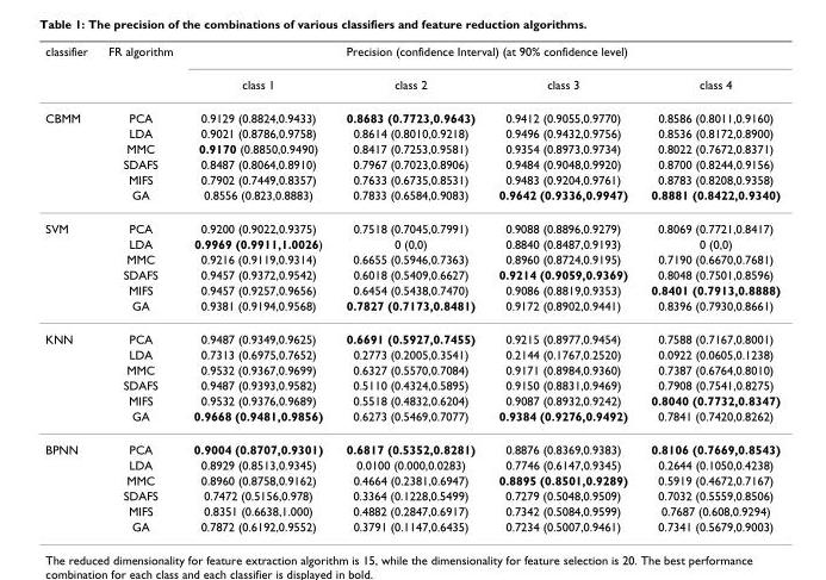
<table><thead><tr><td rowspan="2">classifier</td><td rowspan="2">FR algorithm</td><td colspan="4">Precision (confidence Interval) (at 90% confidence level)</td></tr><tr><td>class 1</td><td>class 2</td><td>class 3</td><td>class 4</td></tr></thead><tbody><tr><td rowspan="6">CBMM</td><td>PCA</td><td>0.9129 (0.8824,0.9433)</td><td>0.8683 (0.7723,0.9643)</td><td>0.9412 (0.9055,0.9770)</td><td>0.8586 (0.8011,0.9160)</td></tr><tr><td>LDA</td><td>0.9021 (0.8786,0.9758)</td><td>0.8614 (0.8010,0.9218)</td><td>0.9496 (0.9432,0.9756)</td><td>0.8536 (0.8172,0.8900)</td></tr><tr><td>MMC</td><td>0.9170 (0.8850,0.9490)</td><td>0.8417 (0.7253,0.9581)</td><td>0.9354 (0.8973,0.9734)</td><td>0.8022 (0.7672,0.8371)</td></tr><tr><td>SDAFS</td><td>0.8487 (0.8064,0.8910)</td><td>0.7967 (0.7023,0.8906)</td><td>0.9484 (0.9048,0.9920)</td><td>0.8700 (0.8244,0.9156)</td></tr><tr><td>MIFS</td><td>0.7902 (0.7449,0.8357)</td><td>0.7633 (0.6735,0.8531)</td><td>0.9483 (0.9204,0.9761)</td><td>0.8783 (0.8208,0.9358)</td></tr><tr><td>GA</td><td>0.8556 (0.823,0.8883)</td><td>0.7833 (0.6584,0.9083)</td><td>0.9642 (0.9336,0.9947)</td><td>0.8881 (0.8422,0.9340)</td></tr><tr><td rowspan="6">SVM</td><td>PCA</td><td>0.9200 (0.9022,0.9375)</td><td>0.7518 (0.7045,0.7991)</td><td>0.9088 (0.8896,0.9279)</td><td>0.8069 (0.7721,0.8417)</td></tr><tr><td>LDA</td><td>0.9969 (0.9911,1.0026)</td><td>0 (0,0)</td><td>0.8840 (0.8487,0.9193)</td><td>0 (0,0)</td></tr><tr><td>MMC</td><td>0.9216 (0.9119,0.9314)</td><td>0.6655 (0.5946,0.7363)</td><td>0.8960 (0.8724,0.9195)</td><td>0.7190 (0.6670,0.7681)</td></tr><tr><td>SDAFS</td><td>0.9457 (0.9372,0.9542)</td><td>0.6018 (0.5409,0.6627)</td><td>0.9214 (0.9059,0.9369)</td><td>0.8048 (0.7501,0.8596)</td></tr><tr><td>MIFS</td><td>0.9457 (0.9257,0.9656)</td><td>0.6454 (0.5438,0.7470)</td><td>0.9086 (0.8819,0.9353)</td><td>0.8401 (0.7913,0.8888)</td></tr><tr><td>GA</td><td>0.9381 (0.9194,0.9568)</td><td>0.7827 (0.7173,0.8481)</td><td>0.9172 (0.8902,0.9441)</td><td>0.8396 (0.7930,0.8661)</td></tr><tr><td rowspan="6">KNN</td><td>PCA</td><td>0.9487 (0.9349,0.9625)</td><td>0.6691 (0.5927,0.7455)</td><td>0.9215 (0.8977,0.9454)</td><td>0.7588 (0.7167,0.8001)</td></tr><tr><td>LDA</td><td>0.7313 (0.6975,0.7652)</td><td>0.2773 (0.2005,0.3541)</td><td>0.2144 (0.1767,0.2520)</td><td>0.0922 (0.0605,0.1238)</td></tr><tr><td>MMC</td><td>0.9532 (0.9367,0.9699)</td><td>0.6327 (0.5570,0.7084)</td><td>0.9171 (0.8984,0.9360)</td><td>0.7387 (0.6764,0.8010)</td></tr><tr><td>SDAFS</td><td>0.9487 (0.9393,0.9582)</td><td>0.5110 (0.4324,0.5895)</td><td>0.9150 (0.8831,0.9469)</td><td>0.7908 (0.7541,0.8275)</td></tr><tr><td>MIFS</td><td>0.9532 (0.9376,0.9689)</td><td>0.5518 (0.4832,0.6204)</td><td>0.9087 (0.8932,0.9242)</td><td>0.8040 (0.7732,0.8347)</td></tr><tr><td>GA</td><td>0.9668 (0.9481,0.9856)</td><td>0.6273 (0.5469,0.7077)</td><td>0.9384 (0.9276,0.9492)</td><td>0.7841 (0.7420,0.8262)</td></tr><tr><td rowspan="6">BPNN</td><td>PCA</td><td>0.9004 (0.8707,0.9301)</td><td>0.6817 (0.5352,0.8281)</td><td>0.8876 (0.8369,0.9383)</td><td>0.8106 (0.7669,0.8543)</td></tr><tr><td>LDA</td><td>0.8929 (0.8513,0.9345)</td><td>0.0100 (0.000,0.0283)</td><td>0.7746 (0.6147,0.9345)</td><td>0.2644 (0.1050,0.4238)</td></tr><tr><td>MMC</td><td>0.8960 (0.8758,0.9162)</td><td>0.4664 (0.2381,0.6947)</td><td>0.8895 (0.8501,0.9289)</td><td>0.5919 (0.4672,0.7167)</td></tr><tr><td>SDAFS</td><td>0.7472 (0.5156,0.978)</td><td>0.3364 (0.1228,0.5499)</td><td>0.7279 (0.5048,0.9509)</td><td>0.7032 (0.5559,0.8506)</td></tr><tr><td>MIFS</td><td>0.8351 (0.6638,1.000)</td><td>0.4882 (0.2847,0.6917)</td><td>0.7342 (0.5084,0.9599)</td><td>0.7687 (0.608,0.9294)</td></tr><tr><td>GA</td><td>0.7872 (0.6192,0.9552)</td><td>0.3791 (0.1147,0.6435)</td><td>0.7234 (0.5007,0.9461)</td><td>0.7341 (0.5679,0.9003)</td></tr></tbody></table>